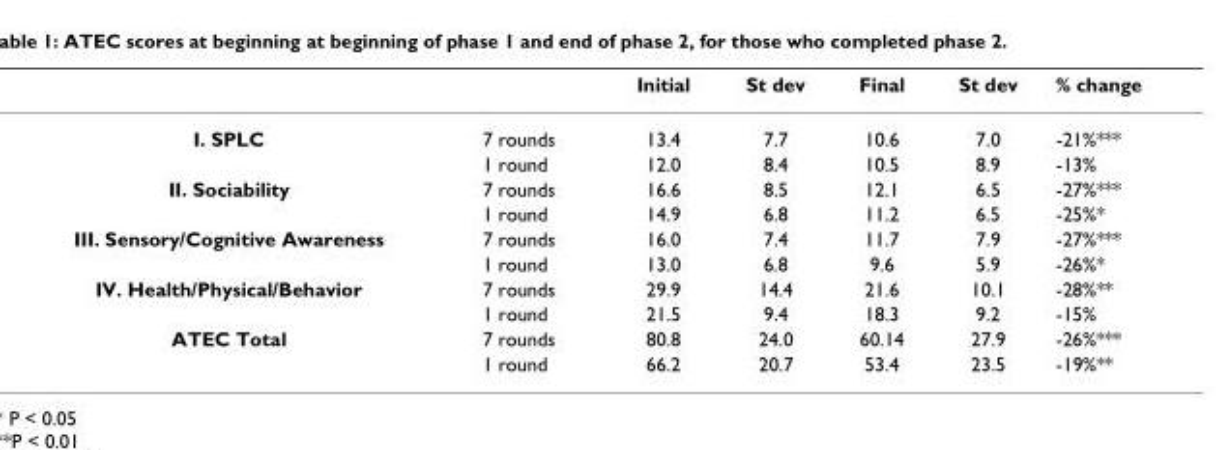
<table><thead><tr><td></td><td></td><td>Initial</td><td>St dev</td><td>Final</td><td>St dev</td><td>% change</td></tr></thead><tbody><tr><td rowspan="2">I. SPLC</td><td>7 rounds</td><td>13.4</td><td>7.7</td><td>10.6</td><td>7.0</td><td>-21%***</td></tr><tr><td>1 round</td><td>12.0</td><td>8.4</td><td>10.5</td><td>8.9</td><td>-13%</td></tr><tr><td rowspan="2">II. Sociability</td><td>7 rounds</td><td>16.6</td><td>8.5</td><td>12.1</td><td>6.5</td><td>-27%***</td></tr><tr><td>1 round</td><td>14.9</td><td>6.8</td><td>11.2</td><td>6.5</td><td>-25%*</td></tr><tr><td rowspan="2">III. Sensory/Cognitive Awareness</td><td>7 rounds</td><td>16.0</td><td>7.4</td><td>11.7</td><td>7.9</td><td>-27%***</td></tr><tr><td>1 round</td><td>13.0</td><td>6.8</td><td>9.6</td><td>5.9</td><td>-26%*</td></tr><tr><td rowspan="2">IV. Health/Physical/Behavior</td><td>7 rounds</td><td>29.9</td><td>14.4</td><td>21.6</td><td>10.1</td><td>-28%**</td></tr><tr><td>1 round</td><td>21.5</td><td>9.4</td><td>18.3</td><td>9.2</td><td>-15%</td></tr><tr><td rowspan="2">ATEC Total</td><td>7 rounds</td><td>80.8</td><td>24.0</td><td>60.14</td><td>27.9</td><td>-26%***</td></tr><tr><td>1 round</td><td>66.2</td><td>20.7</td><td>53.4</td><td>23.5</td><td>-19%**</td></tr></tbody></table>